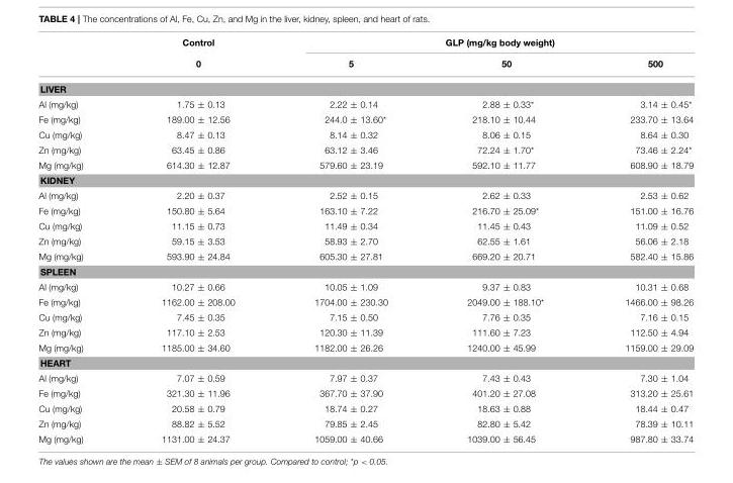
<table><thead><tr><td rowspan="2"></td><td rowspan="2">Control 0</td><td colspan="3">GLP (mg/kg body weight)</td></tr><tr><td>5</td><td>50</td><td>500</td></tr></thead><tbody><tr><td colspan="5">LIVER</td></tr><tr><td>Al (mg/kg)</td><td>1.75 ± 0.13</td><td>2.22 ± 0.14</td><td>2.88 ± 0.33*</td><td>3.14 ± 0.45*</td></tr><tr><td>Fe (mg/kg)</td><td>189.00 ± 12.56</td><td>244.0 ± 13.60*</td><td>218.10 ± 10.44</td><td>233.70 ± 13.64</td></tr><tr><td>Cu (mg/kg)</td><td>8.47 ± 0.13</td><td>8.14 ± 0.32</td><td>8.06 ± 0.15</td><td>8.64 ± 0.30</td></tr><tr><td>Zn (mg/kg)</td><td>63.45 ± 0.86</td><td>63.12 ± 3.46</td><td>72.24 ± 1.70*</td><td>73.46 ± 2.24*</td></tr><tr><td>Mg (mg/kg)</td><td>614.30 ± 12.87</td><td>579.60 ± 23.19</td><td>592.10 ± 11.77</td><td>608.90 ± 18.79</td></tr><tr><td colspan="5">KIDNEY</td></tr><tr><td>Al (mg/kg)</td><td>2.20 ± 0.37</td><td>2.52 ± 0.15</td><td>2.62 ± 0.33</td><td>2.53 ± 0.62</td></tr><tr><td>Fe (mg/kg)</td><td>150.80 ± 5.64</td><td>163.10 ± 7.22</td><td>216.70 ± 25.09*</td><td>151.00 ± 16.76</td></tr><tr><td>Cu (mg/kg)</td><td>11.15 ± 0.73</td><td>11.49 ± 0.34</td><td>11.45 ± 0.43</td><td>11.09 ± 0.52</td></tr><tr><td>Zn (mg/kg)</td><td>59.15 ± 3.53</td><td>58.93 ± 2.70</td><td>62.55 ± 1.61</td><td>56.06 ± 2.18</td></tr><tr><td>Mg (mg/kg)</td><td>593.90 ± 24.84</td><td>605.30 ± 27.81</td><td>669.20 ± 20.71</td><td>582.40 ± 15.86</td></tr><tr><td colspan="5">SPLEEN</td></tr><tr><td>Al (mg/kg)</td><td>10.27 ± 0.66</td><td>10.05 ± 1.09</td><td>9.37 ± 0.83</td><td>10.31 ± 0.68</td></tr><tr><td>Fe (mg/kg)</td><td>1162.00 ± 208.00</td><td>1704.00 ± 230.30</td><td>2049.00 ± 188.10*</td><td>1466.00 ± 98.26</td></tr><tr><td>Cu (mg/kg)</td><td>7.45 ± 0.35</td><td>7.15 ± 0.50</td><td>7.76 ± 0.35</td><td>7.16 ± 0.15</td></tr><tr><td>Zn (mg/kg)</td><td>117.10 ± 2.53</td><td>120.30 ± 11.39</td><td>111.60 ± 7.23</td><td>112.50 ± 4.94</td></tr><tr><td>Mg (mg/kg)</td><td>1185.00 ± 34.60</td><td>1182.00 ± 26.26</td><td>1240.00 ± 45.99</td><td>1159.00 ± 29.09</td></tr><tr><td colspan="5">HEART</td></tr><tr><td>Al (mg/kg)</td><td>7.07 ± 0.59</td><td>7.97 ± 0.37</td><td>7.43 ± 0.43</td><td>7.30 ± 1.04</td></tr><tr><td>Fe (mg/kg)</td><td>321.30 ± 11.96</td><td>367.70 ± 37.90</td><td>401.20 ± 27.08</td><td>313.20 ± 25.61</td></tr><tr><td>Cu (mg/kg)</td><td>20.58 ± 0.79</td><td>18.74 ± 0.27</td><td>18.63 ± 0.88</td><td>18.44 ± 0.47</td></tr><tr><td>Zn (mg/kg)</td><td>88.82 ± 5.52</td><td>79.85 ± 2.45</td><td>82.80 ± 5.42</td><td>78.39 ± 10.11</td></tr><tr><td>Mg (mg/kg)</td><td>1131.00 ± 24.37</td><td>1059.00 ± 40.66</td><td>1039.00 ± 56.45</td><td>987.80 ± 33.74</td></tr></tbody></table>